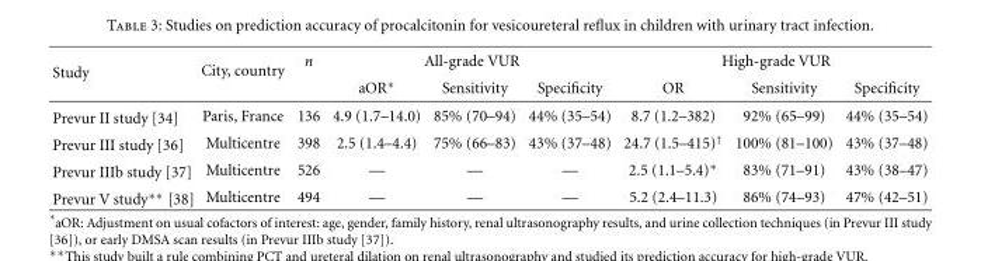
<table><thead><tr><td rowspan="2">Study</td><td rowspan="2">City, country</td><td rowspan="2">n</td><td colspan="3">All-grade VUR</td><td colspan="3">High-grade VUR</td></tr><tr><td>aOR∗</td><td>Sensitivity</td><td>Specificity</td><td>OR</td><td>Sensitivity</td><td>Specificity</td></tr></thead><tbody><tr><td>Prevur II study [34]</td><td>Paris, France</td><td>136</td><td>4.9 (1.7–14.0)</td><td>85% (70–94)</td><td>44% (35–54)</td><td>8.7 (1.2–382)</td><td>92% (65–99)</td><td>44% (35–54)</td></tr><tr><td>Prevur III study [36]</td><td>Multicentre</td><td>398</td><td>2.5 (1.4–4.4)</td><td>75% (66–83)</td><td>43% (37–48)</td><td>24.7 (1.5–415)<sup>†</sup></td><td>100% (81–100)</td><td>43% (37–48)</td></tr><tr><td>Prevur IIIb study [37]</td><td>Multicentre</td><td>526</td><td>—</td><td>—</td><td>—</td><td>2.5 (1.1–5.4)∗</td><td>83% (71–91)</td><td>43% (38–47)</td></tr><tr><td>Prevur V study∗∗ [38]</td><td>Multicentre</td><td>494</td><td>—</td><td>—</td><td>—</td><td>5.2 (2.4–11.3)</td><td>86% (74–93)</td><td>47% (42–51)</td></tr></tbody></table>